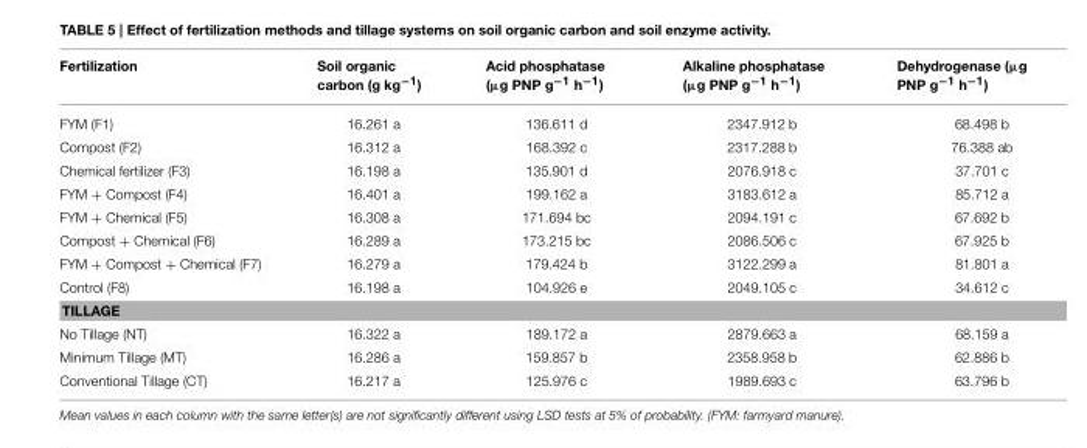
<table><thead><tr><td>Fertilization</td><td>Soil organic carbon (g kg<sup>−1</sup>)</td><td>Acid phosphatase (µg PNP g<sup>−1</sup> h<sup>−1</sup>)</td><td>Alkaline phosphatase (µg PNP g<sup>−1</sup> h<sup>−1</sup>)</td><td>Dehydrogenase (µg PNP g<sup>−1</sup> h<sup>−1</sup>)</td></tr></thead><tbody><tr><td>FYM (F1)</td><td>16.261 a</td><td>136.611 d</td><td>2347.912 b</td><td>68.498 b</td></tr><tr><td>Compost (F2)</td><td>16.312 a</td><td>168.392 c</td><td>2317.288 b</td><td>76.388 ab</td></tr><tr><td>Chemical fertilizer (F3)</td><td>16.198 a</td><td>135.901 d</td><td>2076.918 c</td><td>37.701 c</td></tr><tr><td>FYM + Compost (F4)</td><td>16.401 a</td><td>199.162 a</td><td>3183.612 a</td><td>85.712 a</td></tr><tr><td>FYM + Chemical (F5)</td><td>16.308 a</td><td>171.694 bc</td><td>2094.191 c</td><td>67.692 b</td></tr><tr><td>Compost + Chemical (F6)</td><td>16.289 a</td><td>173.215 bc</td><td>2086.506 c</td><td>67.925 b</td></tr><tr><td>FYM + Compost + Chemical (F7)</td><td>16.279 a</td><td>179.424 b</td><td>3122.299 a</td><td>81.801 a</td></tr><tr><td>Control (F8)</td><td>16.198 a</td><td>104.926 e</td><td>2049.105 c</td><td>34.612 c</td></tr><tr><td colspan="5">TILLAGE</td></tr><tr><td>No Tillage (NT)</td><td>16.322 a</td><td>189.172 a</td><td>2879.663 a</td><td>68.159 a</td></tr><tr><td>Minimum Tillage (MT)</td><td>16.286 a</td><td>159.857 b</td><td>2358.958 b</td><td>62.886 b</td></tr><tr><td>Conventional Tillage (CT)</td><td>16.217 a</td><td>125.976 c</td><td>1989.693 c</td><td>63.796 b</td></tr></tbody></table>